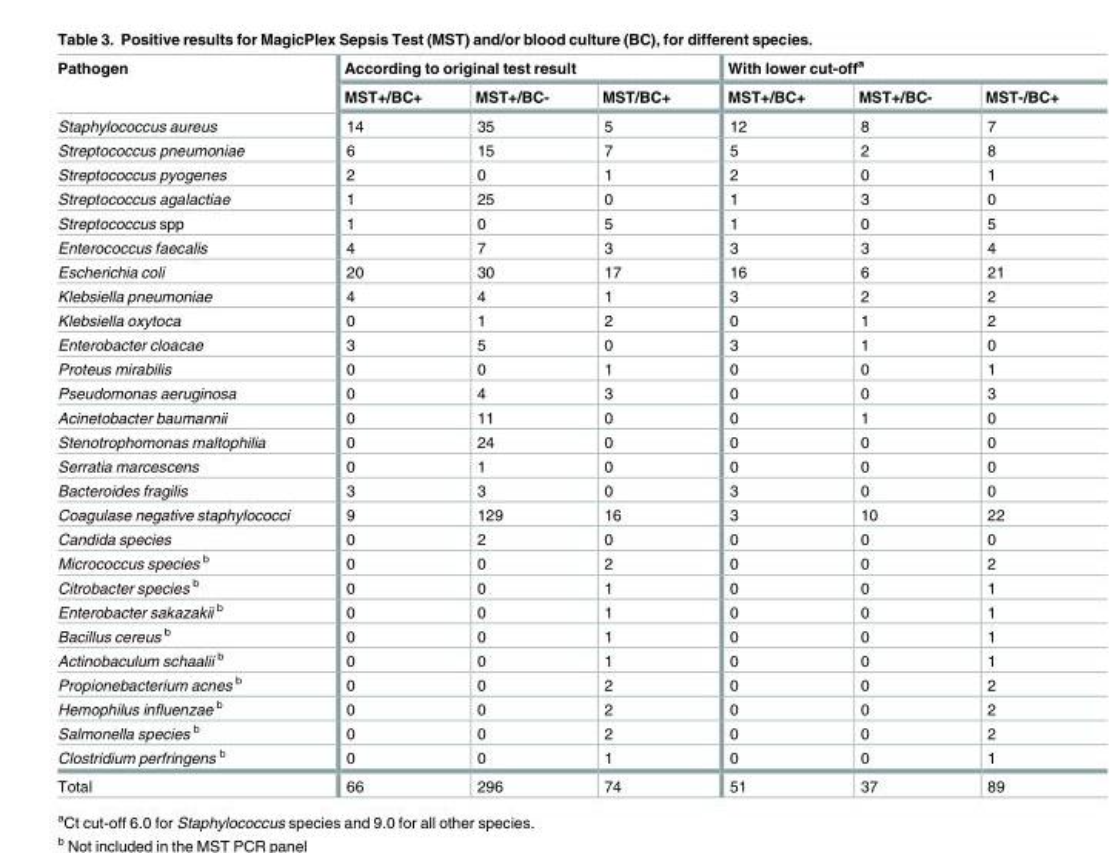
<table><thead><tr><td rowspan="2">Pathogen</td><td colspan="3">According to original test result</td><td colspan="3">With lower cut-off<sup>a</sup></td></tr><tr><td>MST+/BC+</td><td>MST+/BC-</td><td>MST/BC+</td><td>MST+/BC+</td><td>MST+/BC-</td><td>MST-/BC+</td></tr></thead><tbody><tr><td>Staphylococcus aureus</td><td>14</td><td>35</td><td>5</td><td>12</td><td>8</td><td>7</td></tr><tr><td>Streptococcus pneumoniae</td><td>6</td><td>15</td><td>7</td><td>5</td><td>2</td><td>8</td></tr><tr><td>Streptococcus pyogenes</td><td>2</td><td>0</td><td>1</td><td>2</td><td>0</td><td>1</td></tr><tr><td>Streptococcus agalactiae</td><td>1</td><td>25</td><td>0</td><td>1</td><td>3</td><td>0</td></tr><tr><td>Streptococcus spp</td><td>1</td><td>0</td><td>5</td><td>1</td><td>0</td><td>5</td></tr><tr><td>Enterococcus faecalis</td><td>4</td><td>7</td><td>3</td><td>3</td><td>3</td><td>4</td></tr><tr><td>Escherichia coli</td><td>20</td><td>30</td><td>17</td><td>16</td><td>6</td><td>21</td></tr><tr><td>Klebsiella pneumoniae</td><td>4</td><td>4</td><td>1</td><td>3</td><td>2</td><td>2</td></tr><tr><td>Klebsiella oxytoca</td><td>0</td><td>1</td><td>2</td><td>0</td><td>1</td><td>2</td></tr><tr><td>Enterobacter cloacae</td><td>3</td><td>5</td><td>0</td><td>3</td><td>1</td><td>0</td></tr><tr><td>Proteus mirabilis</td><td>0</td><td>0</td><td>1</td><td>0</td><td>0</td><td>1</td></tr><tr><td>Pseudomonas aeruginosa</td><td>0</td><td>4</td><td>3</td><td>0</td><td>0</td><td>3</td></tr><tr><td>Acinetobacter baumannii</td><td>0</td><td>11</td><td>0</td><td>0</td><td>1</td><td>0</td></tr><tr><td>Stenotrophomonas maltophilia</td><td>0</td><td>24</td><td>0</td><td>0</td><td>0</td><td>0</td></tr><tr><td>Serratia marcescens</td><td>0</td><td>1</td><td>0</td><td>0</td><td>0</td><td>0</td></tr><tr><td>Bacteroides fragilis</td><td>3</td><td>3</td><td>0</td><td>3</td><td>0</td><td>0</td></tr><tr><td>Coagulase negative staphylococci</td><td>9</td><td>129</td><td>16</td><td>3</td><td>10</td><td>22</td></tr><tr><td>Candida species</td><td>0</td><td>2</td><td>0</td><td>0</td><td>0</td><td>0</td></tr><tr><td>Micrococcus species <sup>b</sup></td><td>0</td><td>0</td><td>2</td><td>0</td><td>0</td><td>2</td></tr><tr><td>Citrobacter species <sup>b</sup></td><td>0</td><td>0</td><td>1</td><td>0</td><td>0</td><td>1</td></tr><tr><td>Enterobacter sakazakii <sup>b</sup></td><td>0</td><td>0</td><td>1</td><td>0</td><td>0</td><td>1</td></tr><tr><td>Bacillus cereus <sup>b</sup></td><td>0</td><td>0</td><td>1</td><td>0</td><td>0</td><td>1</td></tr><tr><td>Actinobaculum schaalii <sup>b</sup></td><td>0</td><td>0</td><td>1</td><td>0</td><td>0</td><td>1</td></tr><tr><td>Propionebacterium acnes <sup>b</sup></td><td>0</td><td>0</td><td>2</td><td>0</td><td>0</td><td>2</td></tr><tr><td>Hemophilus influenzae <sup>b</sup></td><td>0</td><td>0</td><td>2</td><td>0</td><td>0</td><td>2</td></tr><tr><td>Salmonella species <sup>b</sup></td><td>0</td><td>0</td><td>2</td><td>0</td><td>0</td><td>2</td></tr><tr><td>Clostridium perfringens <sup>b</sup></td><td>0</td><td>0</td><td>1</td><td>0</td><td>0</td><td>1</td></tr><tr><td>Total</td><td>66</td><td>296</td><td>74</td><td>51</td><td>37</td><td>89</td></tr></tbody></table>